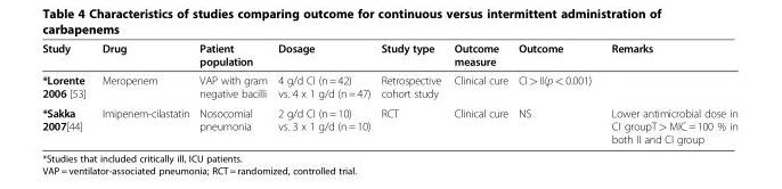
<table><thead><tr><td>Study</td><td>Drug</td><td>Patient population</td><td>Dosage</td><td>Study type</td><td>Outcome measure</td><td>Outcome</td><td>Remarks</td></tr></thead><tbody><tr><td>*Lorente 2006 [53]</td><td>Meropenem</td><td>VAP with gram negative bacilli</td><td>4 g/d CI (n= 42) vs. 4 x 1 g/d (n= 47)</td><td>Retrospective cohort study</td><td>Clinical cure</td><td>CI&gt; II(p &lt; 0.001)</td><td></td></tr><tr><td>*Sakka 2007[44]</td><td>Imipenem-cilastatin</td><td>Nosocomial pneumonia</td><td>2 g/d CI (n= 10) vs. 3 x 1 g/d (n= 10)</td><td>RCT</td><td>Clinical cure</td><td>NS</td><td>Lower antimicrobial dose in CI groupT&gt; MIC = 100 % in both II and CI group</td></tr></tbody></table>